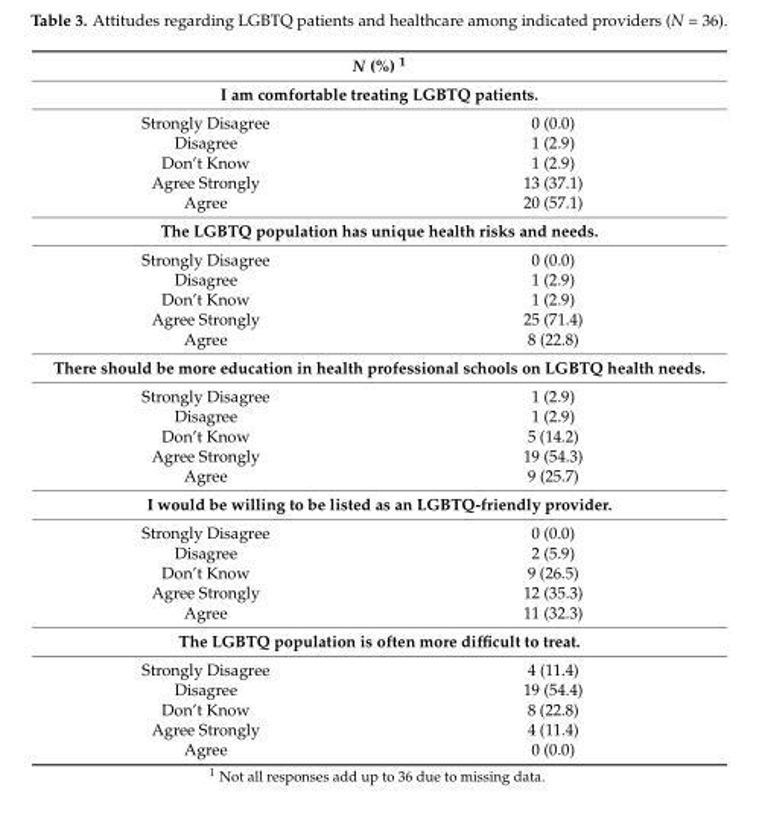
<table><thead><tr><td rowspan="2" colspan="2">N (%) <sup>1</sup> I am comfortable treating LGBTQ patients.</td></tr><tr></tr><tr><td>Strongly Disagree</td><td>0 (0.0)</td></tr></thead><tbody><tr><td>Disagree</td><td>1 (2.9)</td></tr><tr><td>Don’t Know</td><td>1 (2.9)</td></tr><tr><td>Agree Strongly</td><td>13 (37.1)</td></tr><tr><td>Agree</td><td>20 (57.1)</td></tr><tr><td colspan="2">The LGBTQ population has unique health risks and needs.</td></tr><tr><td>Strongly Disagree</td><td>0 (0.0)</td></tr><tr><td>Disagree</td><td>1 (2.9)</td></tr><tr><td>Don’t Know</td><td>1 (2.9)</td></tr><tr><td>Agree Strongly</td><td>25 (71.4)</td></tr><tr><td>Agree</td><td>8 (22.8)</td></tr><tr><td colspan="2">There should be more education in health professional schools on LGBTQ health needs.</td></tr><tr><td>Strongly Disagree</td><td>1 (2.9)</td></tr><tr><td>Disagree</td><td>1 (2.9)</td></tr><tr><td>Don’t Know</td><td>5 (14.2)</td></tr><tr><td>Agree Strongly</td><td>19 (54.3)</td></tr><tr><td>Agree</td><td>9 (25.7)</td></tr><tr><td colspan="2">I would be willing to be listed as an LGBTQ-friendly provider.</td></tr><tr><td>Strongly Disagree</td><td>0 (0.0)</td></tr><tr><td>Disagree</td><td>2 (5.9)</td></tr><tr><td>Don’t Know</td><td>9 (26.5)</td></tr><tr><td>Agree Strongly</td><td>12 (35.3)</td></tr><tr><td>Agree</td><td>11 (32.3)</td></tr><tr><td colspan="2">The LGBTQ population is often more difficult to treat.</td></tr><tr><td>Strongly Disagree</td><td>4 (11.4)</td></tr><tr><td>Disagree</td><td>19 (54.4)</td></tr><tr><td>Don’t Know</td><td>8 (22.8)</td></tr><tr><td>Agree Strongly</td><td>4 (11.4)</td></tr><tr><td>Agree</td><td>0 (0.0)</td></tr></tbody></table>